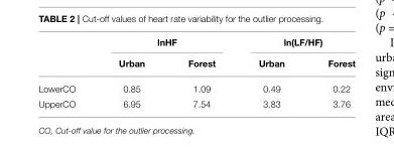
<table><thead><tr><td rowspan="2"></td><td colspan="2">lnHF</td><td colspan="2">ln(LF/HF)</td></tr><tr><td>Urban</td><td>Forest</td><td>Urban</td><td>Forest</td></tr></thead><tbody><tr><td>LowerCO</td><td>0.85</td><td>1.09</td><td>0.49</td><td>0.22</td></tr><tr><td>UpperCO</td><td>6.95</td><td>7.54</td><td>3.83</td><td>3.76</td></tr></tbody></table>